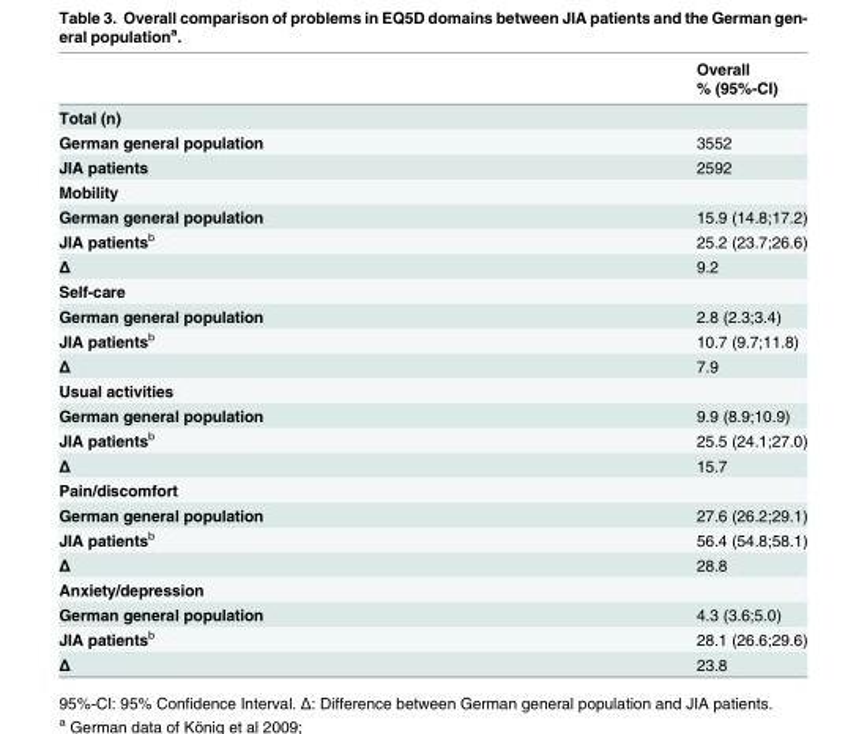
<table><thead><tr><td rowspan="2"></td><td rowspan="2">Overall % (95%-CI)</td></tr><tr></tr></thead><tbody><tr><td colspan="2">Total (n)</td></tr><tr><td>German general population</td><td>3552</td></tr><tr><td>JIA patients</td><td>2592</td></tr><tr><td colspan="2">Mobility</td></tr><tr><td>German general population</td><td>15.9 (14.8;17.2)</td></tr><tr><td>JIA patients<sup>b</sup></td><td>25.2 (23.7;26.6)</td></tr><tr><td>Δ</td><td>9.2</td></tr><tr><td colspan="2">Self-care</td></tr><tr><td>German general population</td><td>2.8 (2.3;3.4)</td></tr><tr><td>JIA patients<sup>b</sup></td><td>10.7 (9.7;11.8)</td></tr><tr><td>Δ</td><td>7.9</td></tr><tr><td colspan="2">Usual activities</td></tr><tr><td>German general population</td><td>9.9 (8.9;10.9)</td></tr><tr><td>JIA patients<sup>b</sup></td><td>25.5 (24.1;27.0)</td></tr><tr><td>Δ</td><td>15.7</td></tr><tr><td colspan="2">Pain/discomfort</td></tr><tr><td>German general population</td><td>27.6 (26.2;29.1)</td></tr><tr><td>JIA patients<sup>b</sup></td><td>56.4 (54.8;58.1)</td></tr><tr><td>Δ</td><td>28.8</td></tr><tr><td colspan="2">Anxiety/depression</td></tr><tr><td>German general population</td><td>4.3 (3.6;5.0)</td></tr><tr><td>JIA patients<sup>b</sup></td><td>28.1 (26.6;29.6)</td></tr><tr><td>Δ</td><td>23.8</td></tr></tbody></table>